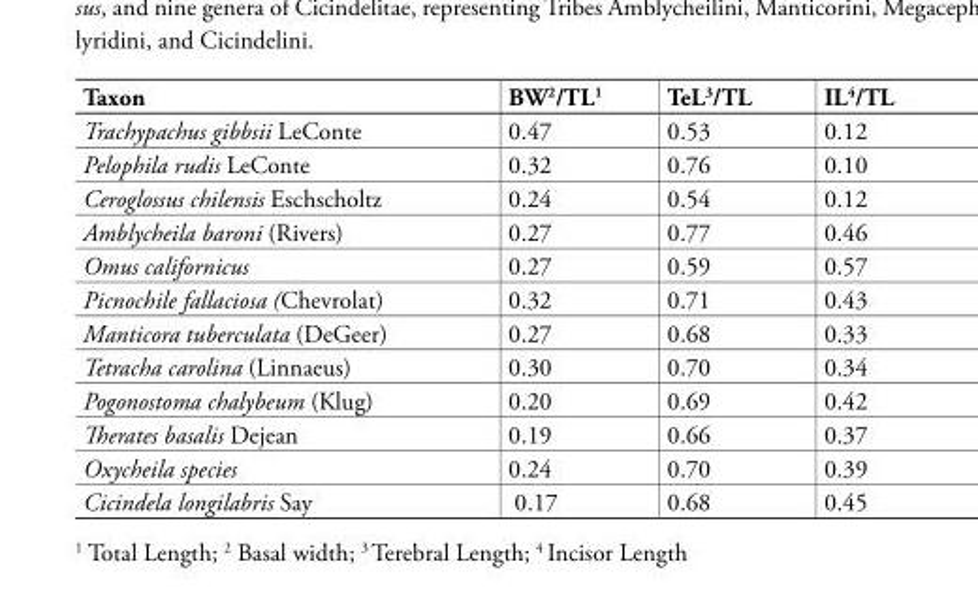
<table><thead><tr><td>Taxon</td><td>BW<sup>2</sup>/TL<sup>1</sup></td><td>TeL<sup>3</sup>/TL</td><td>IL<sup>4</sup>/TL</td></tr></thead><tbody><tr><td>Trachypachus gibbsii LeConte</td><td>0.47</td><td>0.53</td><td>0.12</td></tr><tr><td>Pelophila rudis LeConte</td><td>0.32</td><td>0.76</td><td>0.10</td></tr><tr><td>Ceroglossus chilensis Eschscholtz</td><td>0.24</td><td>0.54</td><td>0.12</td></tr><tr><td>Amblycheila baroni (Rivers)</td><td>0.27</td><td>0.77</td><td>0.46</td></tr><tr><td>Omus californicus</td><td>0.27</td><td>0.59</td><td>0.57</td></tr><tr><td>Picnochile fallaciosa (Chevrolat)</td><td>0.32</td><td>0.71</td><td>0.43</td></tr><tr><td>Manticora tuberculata (DeGeer)</td><td>0.27</td><td>0.68</td><td>0.33</td></tr><tr><td>Tetracha carolina (Linnaeus)</td><td>0.30</td><td>0.70</td><td>0.34</td></tr><tr><td>Pogonostoma chalybeum (Klug)</td><td>0.20</td><td>0.69</td><td>0.42</td></tr><tr><td>Therates basalis Dejean</td><td>0.19</td><td>0.66</td><td>0.37</td></tr><tr><td>Oxycheila species</td><td>0.24</td><td>0.70</td><td>0.39</td></tr><tr><td>Cicindela longilabris Say</td><td>0.17</td><td>0.68</td><td>0.45</td></tr></tbody></table>